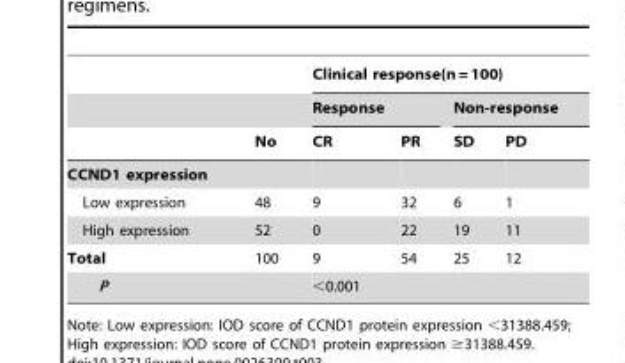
<table><thead><tr><td rowspan="3"></td><td rowspan="3">No</td><td colspan="4">Clinical response(n = 100)</td></tr><tr><td colspan="2">Response</td><td colspan="2">Non-response</td></tr><tr><td>CR</td><td>PR</td><td>SD</td><td>PD</td></tr></thead><tbody><tr><td colspan="6">CCND1 expression</td></tr><tr><td>Low expression</td><td>48</td><td>9</td><td>32</td><td>6</td><td>1</td></tr><tr><td>High expression</td><td>52</td><td>0</td><td>22</td><td>19</td><td>11</td></tr><tr><td>Total</td><td>100</td><td>9</td><td>54</td><td>25</td><td>12</td></tr><tr><td>P</td><td></td><td colspan="4">&lt;0.001</td></tr></tbody></table>